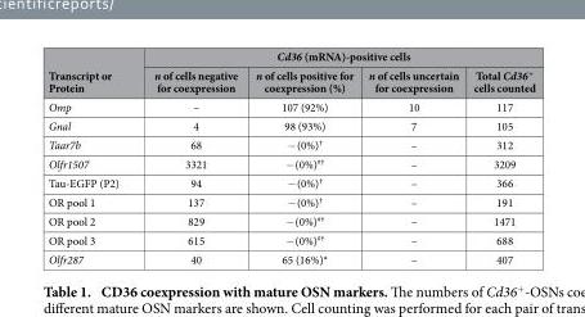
<table><thead><tr><td rowspan="2">Transcript or Protein</td><td colspan="4">Cd36 (mRNA)-positive cells</td></tr><tr><td>n of cells negative for coexpression</td><td>n of cells positive for coexpression (%)</td><td>n of cells uncertain for coexpression</td><td>Total Cd36<sup>+</sup> cells counted</td></tr></thead><tbody><tr><td>Omp</td><td>–</td><td>107 (92%)</td><td>10</td><td>117</td></tr><tr><td>Gnal</td><td>4</td><td>98 (93%)</td><td>7</td><td>105</td></tr><tr><td>Taar7b</td><td>68</td><td>− (0%)<sup>†</sup></td><td>–</td><td>312</td></tr><tr><td>Olfr1507</td><td>3321</td><td>− (0%)<sup>#†</sup></td><td>–</td><td>3209</td></tr><tr><td>Tau-EGFP (P2)</td><td>94</td><td>− (0%)<sup>†</sup></td><td>–</td><td>366</td></tr><tr><td>OR pool 1</td><td>137</td><td>− (0%)<sup>†</sup></td><td>–</td><td>191</td></tr><tr><td>OR pool 2</td><td>829</td><td>− (0%)<sup>#†</sup></td><td>–</td><td>1471</td></tr><tr><td>OR pool 3</td><td>615</td><td>− (0%)<sup>#†</sup></td><td>–</td><td>688</td></tr><tr><td>Olfr287</td><td>40</td><td>65 (16%)*</td><td>–</td><td>407</td></tr></tbody></table>